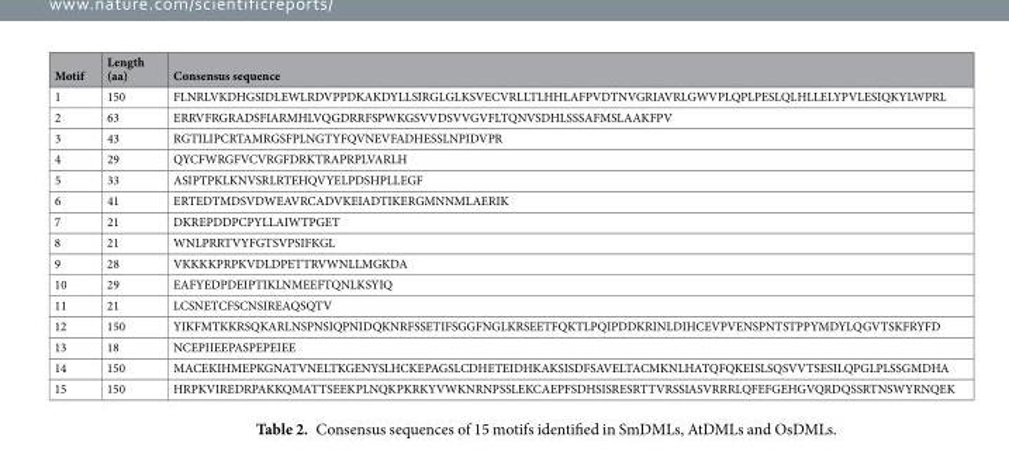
<table><thead><tr><td>Motif</td><td>Length (aa)</td><td>Consensus sequence</td></tr></thead><tbody><tr><td>1</td><td>150</td><td>FLNRLVKDHGSIDLEWLRDVPPDKAKDYLLSIRGLGLKSVECVRLLTLHHLAFPVDTNVGRIAVRLGWVPLQPLPESLQLHLLELYPVLESIQKYLWPRL</td></tr><tr><td>2</td><td>63</td><td>ERRVFRGRADSFIARMHLVQGDRRFSPWKGSVVDSVVGVFLTQNVSDHLSSSAFMSLAAKFPV</td></tr><tr><td>3</td><td>43</td><td>RGTILIPCRTAMRGSFPLNGTYFQVNEVFADHESSLNPIDVPR</td></tr><tr><td>4</td><td>29</td><td>QYCFWRGFVCVRGFDRKTRAPRPLVARLH</td></tr><tr><td>5</td><td>33</td><td>ASIPTPKLKNVSRLRTEHQVYELPDSHPLLEGF</td></tr><tr><td>6</td><td>41</td><td>ERTEDTMDSVDWEAVRCADVKEIADTIKERGMNNMLAERIK</td></tr><tr><td>7</td><td>21</td><td>DKREPDDPCPYLLAIWTPGET</td></tr><tr><td>8</td><td>21</td><td>WNLPRRTVYFGTSVPSIFKGL</td></tr><tr><td>9</td><td>28</td><td>VKKKKPRPKVDLDPETTRVWNLLMGKDA</td></tr><tr><td>10</td><td>29</td><td>EAFYEDPDEIPTIKLNMEEFTQNLKSYIQ</td></tr><tr><td>11</td><td>21</td><td>LCSNETCFSCNSIREAQSQTV</td></tr><tr><td>12</td><td>150</td><td>YIKFMTKKRSQKARLNSPNSIQPNIDQKNRFSSETIFSGGFNGLKRSEETFQKTLPQIPDDKRINLDIHCEVPVENSPNTSTPPYMDYLQGVTSKFRYFD</td></tr><tr><td>13</td><td>18</td><td>NCEPIIEEPASPEPEIEE</td></tr><tr><td>14</td><td>150</td><td>MACEKIHMEPKGNATVNELTKGENYSLHCKEPAGSLCDHETEIDHKAKSISDFSAVELTACMKNLHATQFQKEISLSQSVVTSESILQPGLPLSSGMDHA</td></tr><tr><td>15</td><td>150</td><td>HRPKVIREDRPAKKQMATTSEEKPLNQKPKRKYVWKNRNPSSLEKCAEPFSDHSISRESRTTVRSSIASVRRRLQFEFGEHGVQRDQSSRTNSWYRNQEK</td></tr></tbody></table>